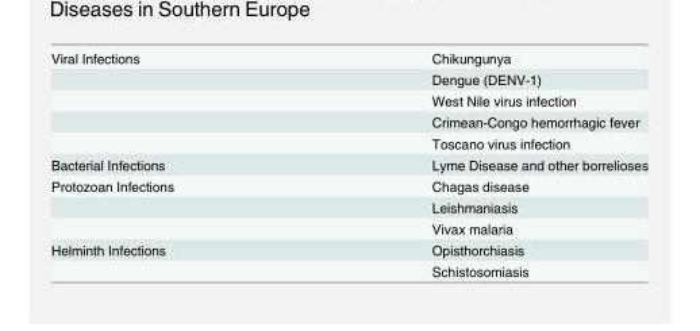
<table><tbody><tr><td rowspan="5">Viral Infections</td><td>Chikungunya</td></tr><tr><td>Dengue (DENV-1)</td></tr><tr><td>West Nile virus infection</td></tr><tr><td>Crimean-Congo hemorrhagic fever</td></tr><tr><td>Toscano virus infection</td></tr><tr><td>Bacterial Infections</td><td>Lyme Disease and other borrelioses</td></tr><tr><td rowspan="3">Protozoan Infections</td><td>Chagas disease</td></tr><tr><td>Leishmaniasis</td></tr><tr><td>Vivax malaria</td></tr><tr><td rowspan="2">Helminth Infections</td><td>Opisthorchiasis</td></tr><tr><td>Schistosomiasis</td></tr></tbody></table>